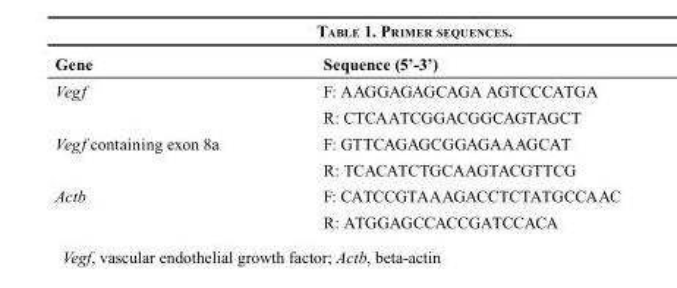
<table><thead><tr><td>Gene</td><td>Sequence (5’-3’)</td></tr></thead><tbody><tr><td rowspan="2">Vegf</td><td>F: AAGGAGAGCAGA AGTCCCATGA</td></tr><tr><td>R: CTCAATCGGACGGCAGTAGCT</td></tr><tr><td rowspan="2">Vegf containing exon 8a</td><td>F: GTTCAGAGCGGAGAAAGCAT</td></tr><tr><td>R: TCACATCTGCAAGTACGTTCG</td></tr><tr><td rowspan="2">Actb</td><td>F: CATCCGTAAAGACCTCTATGCCAAC</td></tr><tr><td>R: ATGGAGCCACCGATCCACA</td></tr></tbody></table>